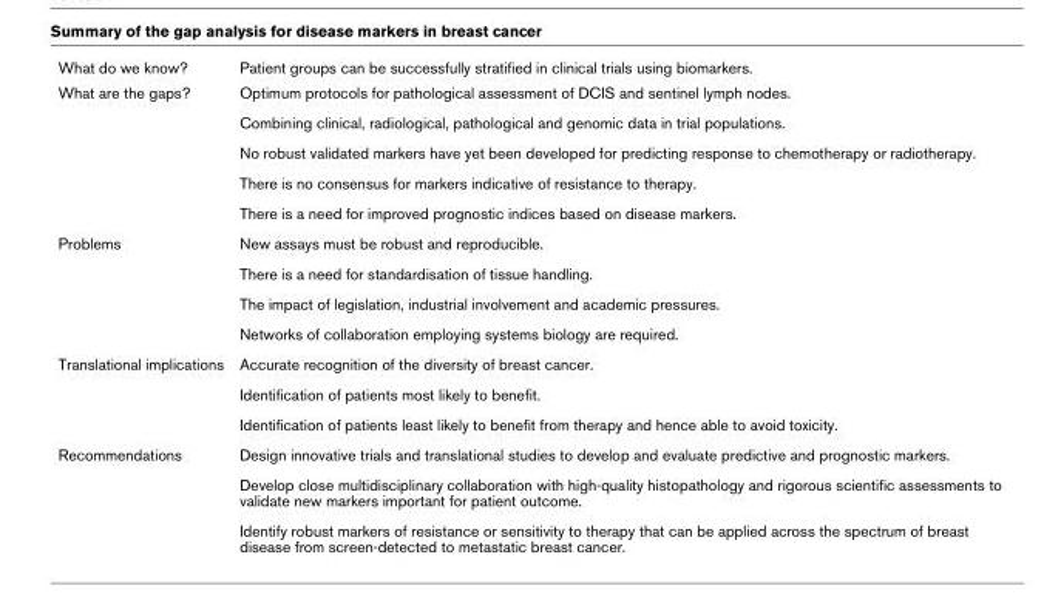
<table><tbody><tr><td>What do we know?</td><td>Patient groups can be successfully stratified in clinical trials using biomarkers.</td></tr><tr><td rowspan="5">What are the gaps?</td><td>Optimum protocols for pathological assessment of DCIS and sentinel lymph nodes.</td></tr><tr><td>Combining clinical, radiological, pathological and genomic data in trial populations.</td></tr><tr><td>No robust validated markers have yet been developed for predicting response to chemotherapy or radiotherapy.</td></tr><tr><td>There is no consensus for markers indicative of resistance to therapy.</td></tr><tr><td>There is a need for improved prognostic indices based on disease markers.</td></tr><tr><td rowspan="4">Problems</td><td>New assays must be robust and reproducible.</td></tr><tr><td>There is a need for standardisation of tissue handling.</td></tr><tr><td>The impact of legislation, industrial involvement and academic pressures.</td></tr><tr><td>Networks of collaboration employing systems biology are required.</td></tr><tr><td rowspan="3">Translational implications</td><td>Accurate recognition of the diversity of breast cancer.</td></tr><tr><td>Identification of patients most likely to benefit.</td></tr><tr><td>Identification of patients least likely to benefit from therapy and hence able to avoid toxicity.</td></tr><tr><td rowspan="3">Recommendations</td><td>Design innovative trials and translational studies to develop and evaluate predictive and prognostic markers.</td></tr><tr><td>Develop close multidisciplinary collaboration with high-quality histopathology and rigorous scientific assessments to validate new markers important for patient outcome.</td></tr><tr><td>Identify robust markers of resistance or sensitivity to therapy that can be applied across the spectrum of breast disease from screen-detected to metastatic breast cancer.</td></tr></tbody></table>